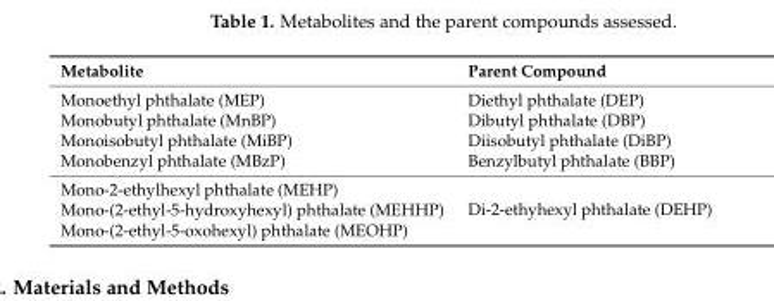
<table><thead><tr><td>Metabolite</td><td>Parent Compound</td></tr></thead><tbody><tr><td>Monoethyl phthalate (MEP)</td><td>Diethyl phthalate (DEP)</td></tr><tr><td>Monobutyl phthalate (MnBP)</td><td>Dibutyl phthalate (DBP)</td></tr><tr><td>Monoisobutyl phthalate (MiBP)</td><td>Diisobutyl phthalate (DiBP)</td></tr><tr><td>Monobenzyl phthalate (MBzP)</td><td>Benzylbutyl phthalate (BBP)</td></tr><tr><td>Mono-2-ethylhexyl phthalate (MEHP)</td><td rowspan="3">Di-2-ethyhexyl phthalate (DEHP)</td></tr><tr><td>Mono-(2-ethyl-5-hydroxyhexyl) phthalate (MEHHP)</td></tr><tr><td>Mono-(2-ethyl-5-oxohexyl) phthalate (MEOHP)</td></tr></tbody></table>